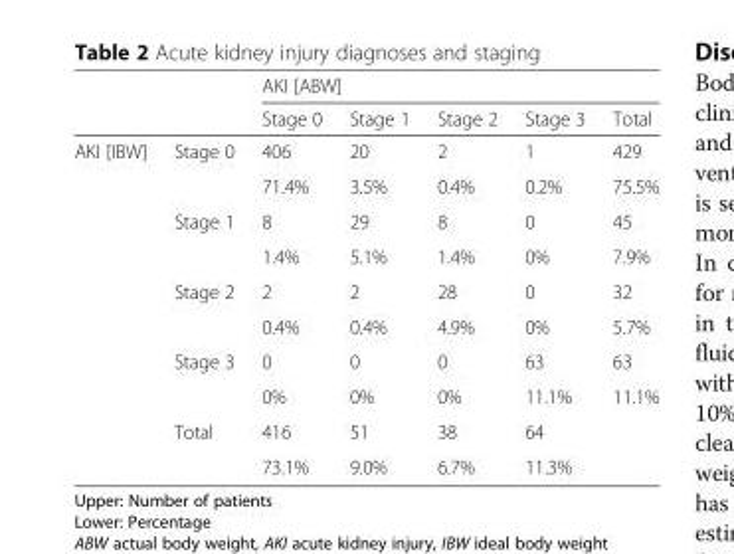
<table><thead><tr><td rowspan="2"></td><td rowspan="2"></td><td colspan="5">AKI [ABW]</td></tr><tr><td>Stage 0</td><td>Stage 1</td><td>Stage 2</td><td>Stage 3</td><td>Total</td></tr></thead><tbody><tr><td rowspan="10">AKI [IBW]</td><td rowspan="2">Stage 0</td><td>406</td><td>20</td><td>2</td><td>1</td><td>429</td></tr><tr><td>71.4%</td><td>3.5%</td><td>0.4%</td><td>0.2%</td><td>75.5%</td></tr><tr><td rowspan="2">Stage 1</td><td>8</td><td>29</td><td>8</td><td>0</td><td>45</td></tr><tr><td>1.4%</td><td>5.1%</td><td>1.4%</td><td>0%</td><td>7.9%</td></tr><tr><td rowspan="2">Stage 2</td><td>2</td><td>2</td><td>28</td><td>0</td><td>32</td></tr><tr><td>0.4%</td><td>0.4%</td><td>4.9%</td><td>0%</td><td>5.7%</td></tr><tr><td rowspan="2">Stage 3</td><td>0</td><td>0</td><td>0</td><td>63</td><td>63</td></tr><tr><td>0%</td><td>0%</td><td>0%</td><td>11.1%</td><td>11.1%</td></tr><tr><td rowspan="2">Total</td><td>416</td><td>51</td><td>38</td><td>64</td><td></td></tr><tr><td>73.1%</td><td>9.0%</td><td>6.7%</td><td>11.3%</td><td></td></tr></tbody></table>